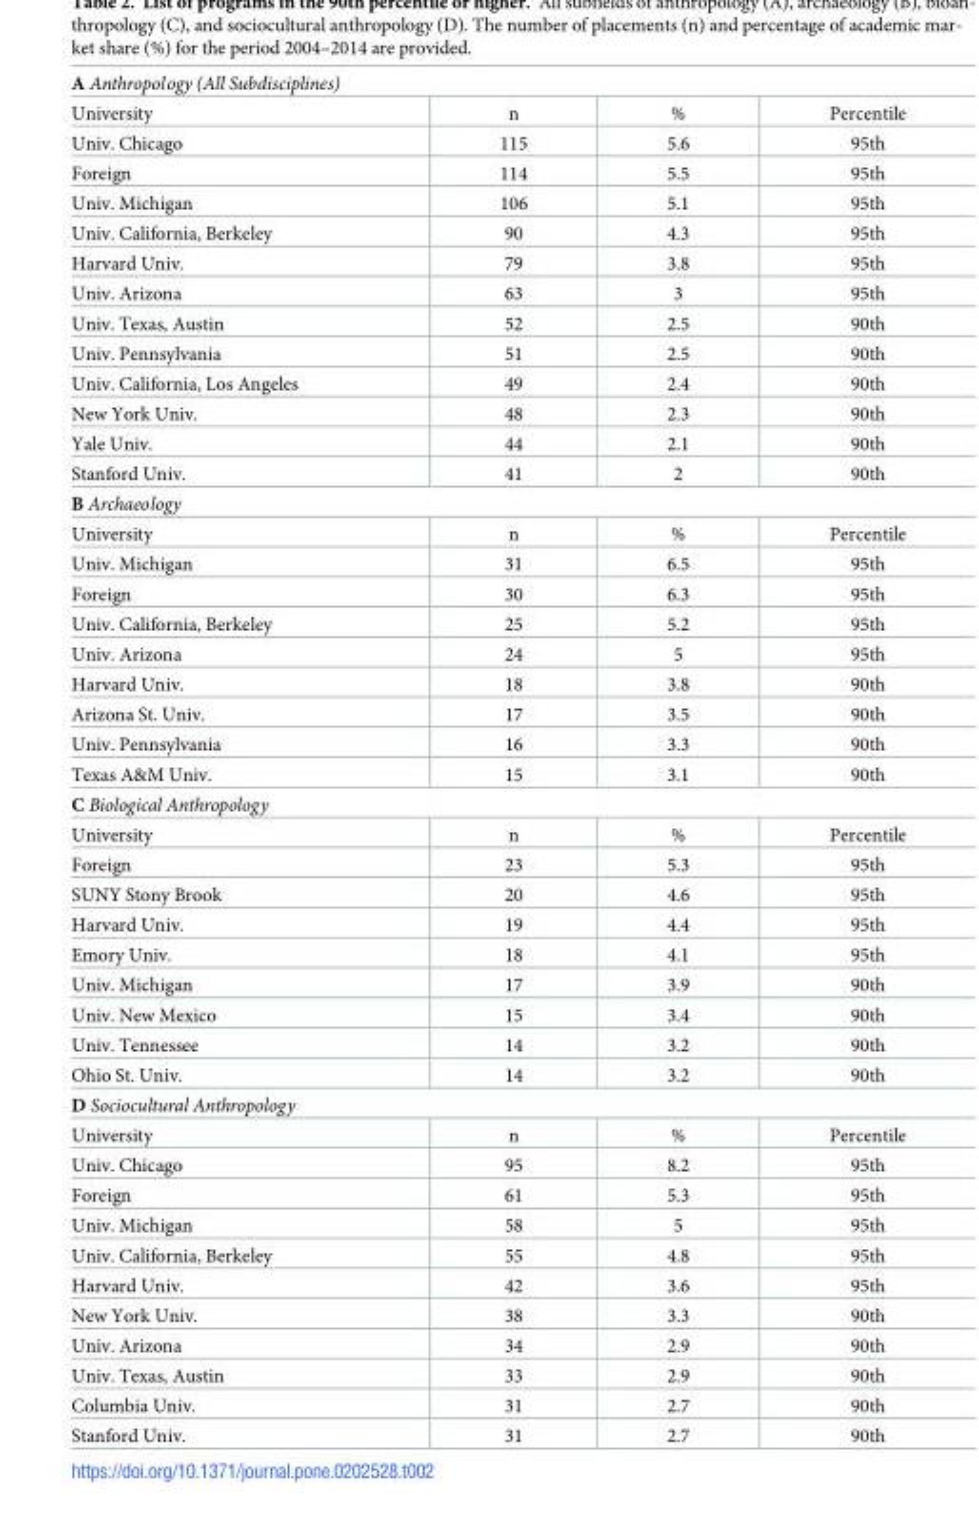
<table><tbody><tr><td colspan="4">A Anthropology (All Subdisciplines)</td></tr><tr><td>University</td><td>n</td><td>%</td><td>Percentile</td></tr><tr><td>Univ. Chicago</td><td>115</td><td>5.6</td><td>95th</td></tr><tr><td>Foreign</td><td>114</td><td>5.5</td><td>95th</td></tr><tr><td>Univ. Michigan</td><td>106</td><td>5.1</td><td>95th</td></tr><tr><td>Univ. California, Berkeley</td><td>90</td><td>4.3</td><td>95th</td></tr><tr><td>Harvard Univ.</td><td>79</td><td>3.8</td><td>95th</td></tr><tr><td>Univ. Arizona</td><td>63</td><td>3</td><td>95th</td></tr><tr><td>Univ. Texas, Austin</td><td>52</td><td>2.5</td><td>90th</td></tr><tr><td>Univ. Pennsylvania</td><td>51</td><td>2.5</td><td>90th</td></tr><tr><td>Univ. California, Los Angeles</td><td>49</td><td>2.4</td><td>90th</td></tr><tr><td>New York Univ.</td><td>48</td><td>2.3</td><td>90th</td></tr><tr><td>Yale Univ.</td><td>44</td><td>2.1</td><td>90th</td></tr><tr><td>Stanford Univ.</td><td>41</td><td>2</td><td>90th</td></tr><tr><td colspan="4">B Archaeology</td></tr><tr><td>University</td><td>n</td><td>%</td><td>Percentile</td></tr><tr><td>Univ. Michigan</td><td>31</td><td>6.5</td><td>95th</td></tr><tr><td>Foreign</td><td>30</td><td>6.3</td><td>95th</td></tr><tr><td>Univ. California, Berkeley</td><td>25</td><td>5.2</td><td>95th</td></tr><tr><td>Univ. Arizona</td><td>24</td><td>5</td><td>95th</td></tr><tr><td>Harvard Univ.</td><td>18</td><td>3.8</td><td>90th</td></tr><tr><td>Arizona St. Univ.</td><td>17</td><td>3.5</td><td>90th</td></tr><tr><td>Univ. Pennsylvania</td><td>16</td><td>3.3</td><td>90th</td></tr><tr><td>Texas A&amp;M Univ.</td><td>15</td><td>3.1</td><td>90th</td></tr><tr><td colspan="4">C Biological Anthropology</td></tr><tr><td>University</td><td>n</td><td>%</td><td>Percentile</td></tr><tr><td>Foreign</td><td>23</td><td>5.3</td><td>95th</td></tr><tr><td>SUNY Stony Brook</td><td>20</td><td>4.6</td><td>95th</td></tr><tr><td>Harvard Univ.</td><td>19</td><td>4.4</td><td>95th</td></tr><tr><td>Emory Univ.</td><td>18</td><td>4.1</td><td>95th</td></tr><tr><td>Univ. Michigan</td><td>17</td><td>3.9</td><td>90th</td></tr><tr><td>Univ. New Mexico</td><td>15</td><td>3.4</td><td>90th</td></tr><tr><td>Univ. Tennessee</td><td>14</td><td>3.2</td><td>90th</td></tr><tr><td>Ohio St. Univ.</td><td>14</td><td>3.2</td><td>90th</td></tr><tr><td colspan="4">D Sociocultural Anthropology</td></tr><tr><td>University</td><td>n</td><td>%</td><td>Percentile</td></tr><tr><td>Univ. Chicago</td><td>95</td><td>8.2</td><td>95th</td></tr><tr><td>Foreign</td><td>61</td><td>5.3</td><td>95th</td></tr><tr><td>Univ. Michigan</td><td>58</td><td>5</td><td>95th</td></tr><tr><td>Univ. California, Berkeley</td><td>55</td><td>4.8</td><td>95th</td></tr><tr><td>Harvard Univ.</td><td>42</td><td>3.6</td><td>95th</td></tr><tr><td>New York Univ.</td><td>38</td><td>3.3</td><td>90th</td></tr><tr><td>Univ. Arizona</td><td>34</td><td>2.9</td><td>90th</td></tr><tr><td>Univ. Texas, Austin</td><td>33</td><td>2.9</td><td>90th</td></tr><tr><td>Columbia Univ.</td><td>31</td><td>2.7</td><td>90th</td></tr><tr><td>Stanford Univ.</td><td>31</td><td>2.7</td><td>90th</td></tr></tbody></table>